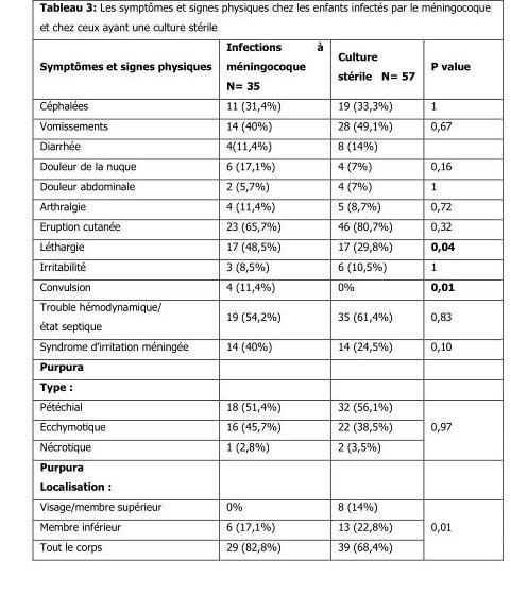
<table><thead><tr><td>Symptômes et signes physiques</td><td>Infections à méningocoque N= 35</td><td>Culture stérile N= 57</td><td>P value</td></tr></thead><tbody><tr><td>Céphalées</td><td>11 (31,4%)</td><td>19 (33,3%)</td><td>1</td></tr><tr><td>Vomissements</td><td>14 (40%)</td><td>28 (49,1%)</td><td>0,67</td></tr><tr><td>Diarrhée</td><td>4(11,4%)</td><td>8 (14%)</td><td></td></tr><tr><td>Douleur de la nuque</td><td>6 (17,1%)</td><td>4 (7%)</td><td>0,16</td></tr><tr><td>Douleur abdominale</td><td>2 (5,7%)</td><td>4 (7%)</td><td>1</td></tr><tr><td>Arthralgie</td><td>4 (11,4%)</td><td>5 (8,7%)</td><td>0,72</td></tr><tr><td>Eruption cutanée</td><td>23 (65,7%)</td><td>46 (80,7%)</td><td>0,32</td></tr><tr><td>Léthargie</td><td>17 (48,5%)</td><td>17 (29,8%)</td><td>0,04</td></tr><tr><td>Irritabilité</td><td>3 (8,5%)</td><td>6 (10,5%)</td><td>1</td></tr><tr><td>Convulsion</td><td>4 (11,4%)</td><td>0%</td><td>0,01</td></tr><tr><td>Trouble hémodynamique/ état septique</td><td>19 (54,2%)</td><td>35 (61,4%)</td><td>0,83</td></tr><tr><td>Syndrome d’irritation méningée</td><td>14 (40%)</td><td>14 (24,5%)</td><td>0,10</td></tr><tr><td colspan="4">Purpura</td></tr><tr><td colspan="4">Type :</td></tr><tr><td>Pétéchial</td><td>18 (51,4%)</td><td>32 (56,1%)</td><td rowspan="3">0,97</td></tr><tr><td>Ecchymotique</td><td>16 (45,7%)</td><td>22 (38,5%)</td></tr><tr><td>Nécrotique</td><td>1 (2,8%)</td><td>2 (3,5%)</td></tr><tr><td colspan="4">Purpura Localisation :</td></tr><tr><td>Visage/membre supérieur</td><td>0%</td><td>8 (14%)</td><td rowspan="3">0,01</td></tr><tr><td>Membre inférieur</td><td>6 (17,1%)</td><td>13 (22,8%)</td></tr><tr><td>Tout le corps</td><td>29 (82,8%)</td><td>39 (68,4%)</td></tr></tbody></table>